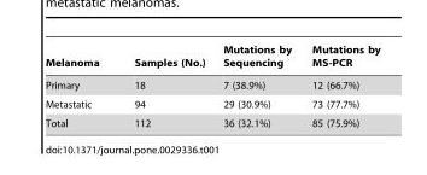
<table><thead><tr><td>Melanoma</td><td>Samples (No.)</td><td>Mutations by Sequencing</td><td>Mutations by MS-PCR</td></tr></thead><tbody><tr><td>Primary</td><td>18</td><td>7 (38.9%)</td><td>12 (66.7%)</td></tr><tr><td>Metastatic</td><td>94</td><td>29 (30.9%)</td><td>73 (77.7%)</td></tr><tr><td>Total</td><td>112</td><td>36 (32.1%)</td><td>85 (75.9%)</td></tr></tbody></table>